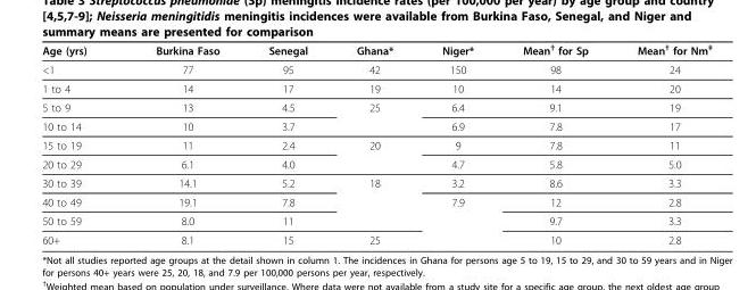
<table><thead><tr><td>Age (yrs)</td><td>Burkina Faso</td><td>Senegal</td><td>Ghana*</td><td>Niger*</td><td>Mean<sup>†</sup> for Sp</td><td>Mean<sup>†</sup> for Nm<sup>‡</sup></td></tr></thead><tbody><tr><td>&lt;1</td><td>77</td><td>95</td><td>42</td><td>150</td><td>98</td><td>24</td></tr><tr><td>1 to 4</td><td>14</td><td>17</td><td>19</td><td>10</td><td>14</td><td>20</td></tr><tr><td>5 to 9</td><td>13</td><td>4.5</td><td>25</td><td>6.4</td><td>9.1</td><td>19</td></tr><tr><td>10 to 14</td><td>10</td><td>3.7</td><td></td><td>6.9</td><td>7.8</td><td>17</td></tr><tr><td>15 to 19</td><td>11</td><td>2.4</td><td>20</td><td>9</td><td>7.8</td><td>11</td></tr><tr><td>20 to 29</td><td>6.1</td><td>4.0</td><td></td><td>4.7</td><td>5.8</td><td>5.0</td></tr><tr><td>30 to 39</td><td>14.1</td><td>5.2</td><td>18</td><td>3.2</td><td>8.6</td><td>3.3</td></tr><tr><td>40 to 49</td><td>19.1</td><td>7.8</td><td></td><td>7.9</td><td>12</td><td>2.8</td></tr><tr><td>50 to 59</td><td>8.0</td><td>11</td><td></td><td></td><td>9.7</td><td>3.3</td></tr><tr><td>60+</td><td>8.1</td><td>15</td><td>25</td><td></td><td>10</td><td>2.8</td></tr></tbody></table>